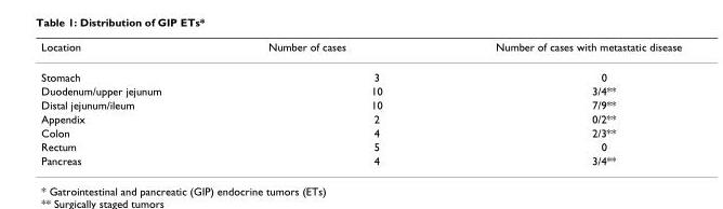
<table><thead><tr><td>Location</td><td>Number of cases</td><td>Number of cases with metastatic disease</td></tr></thead><tbody><tr><td>Stomach</td><td>3</td><td>0</td></tr><tr><td>Duodenum/upper jejunum</td><td>10</td><td>3/4**</td></tr><tr><td>Distal jejunum/ileum</td><td>10</td><td>7/9**</td></tr><tr><td>Appendix</td><td>2</td><td>0/2**</td></tr><tr><td>Colon</td><td>4</td><td>2/3**</td></tr><tr><td>Rectum</td><td>5</td><td>0</td></tr><tr><td>Pancreas</td><td>4</td><td>3/4**</td></tr></tbody></table>